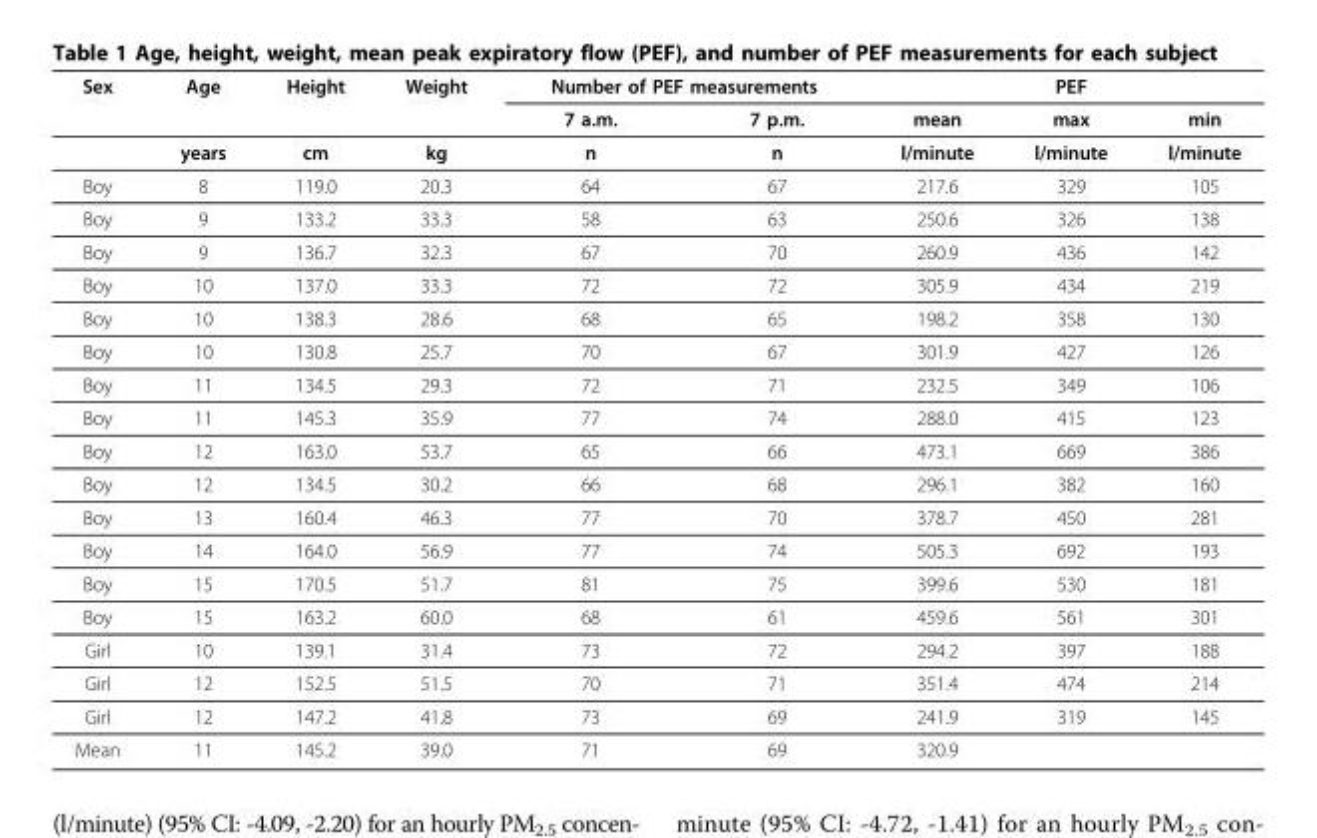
<table><thead><tr><td rowspan="2">Sex</td><td rowspan="2">Age</td><td rowspan="2">Height</td><td rowspan="2">Weight</td><td colspan="2">Number of PEF measurements</td><td colspan="3">PEF</td></tr><tr><td>7 a.m.</td><td>7 p.m.</td><td>mean</td><td>max</td><td>min</td></tr></thead><tbody><tr><td></td><td>years</td><td>cm</td><td>kg</td><td>n</td><td>n</td><td>l/minute</td><td>l/minute</td><td>l/minute</td></tr><tr><td>Boy</td><td>8</td><td>119.0</td><td>20.3</td><td>64</td><td>67</td><td>217.6</td><td>329</td><td>105</td></tr><tr><td>Boy</td><td>9</td><td>133.2</td><td>33.3</td><td>58</td><td>63</td><td>250.6</td><td>326</td><td>138</td></tr><tr><td>Boy</td><td>9</td><td>136.7</td><td>32.3</td><td>67</td><td>70</td><td>260.9</td><td>436</td><td>142</td></tr><tr><td>Boy</td><td>10</td><td>137.0</td><td>33.3</td><td>72</td><td>72</td><td>305.9</td><td>434</td><td>219</td></tr><tr><td>Boy</td><td>10</td><td>138.3</td><td>28.6</td><td>68</td><td>65</td><td>198.2</td><td>358</td><td>130</td></tr><tr><td>Boy</td><td>10</td><td>130.8</td><td>25.7</td><td>70</td><td>67</td><td>301.9</td><td>427</td><td>126</td></tr><tr><td>Boy</td><td>11</td><td>134.5</td><td>29.3</td><td>72</td><td>71</td><td>232.5</td><td>349</td><td>106</td></tr><tr><td>Boy</td><td>11</td><td>145.3</td><td>35.9</td><td>77</td><td>74</td><td>288.0</td><td>415</td><td>123</td></tr><tr><td>Boy</td><td>12</td><td>163.0</td><td>53.7</td><td>65</td><td>66</td><td>473.1</td><td>669</td><td>386</td></tr><tr><td>Boy</td><td>12</td><td>134.5</td><td>30.2</td><td>66</td><td>68</td><td>296.1</td><td>382</td><td>160</td></tr><tr><td>Boy</td><td>13</td><td>160.4</td><td>46.3</td><td>77</td><td>70</td><td>378.7</td><td>450</td><td>281</td></tr><tr><td>Boy</td><td>14</td><td>164.0</td><td>56.9</td><td>77</td><td>74</td><td>505.3</td><td>692</td><td>193</td></tr><tr><td>Boy</td><td>15</td><td>170.5</td><td>51.7</td><td>81</td><td>75</td><td>399.6</td><td>530</td><td>181</td></tr><tr><td>Boy</td><td>15</td><td>163.2</td><td>60.0</td><td>68</td><td>61</td><td>459.6</td><td>561</td><td>301</td></tr><tr><td>Girl</td><td>10</td><td>139.1</td><td>31.4</td><td>73</td><td>72</td><td>294.2</td><td>397</td><td>188</td></tr><tr><td>Girl</td><td>12</td><td>152.5</td><td>51.5</td><td>70</td><td>71</td><td>351.4</td><td>474</td><td>214</td></tr><tr><td>Girl</td><td>12</td><td>147.2</td><td>41.8</td><td>73</td><td>69</td><td>241.9</td><td>319</td><td>145</td></tr><tr><td>Mean</td><td>11</td><td>145.2</td><td>39.0</td><td>71</td><td>69</td><td>320.9</td><td></td><td></td></tr></tbody></table>